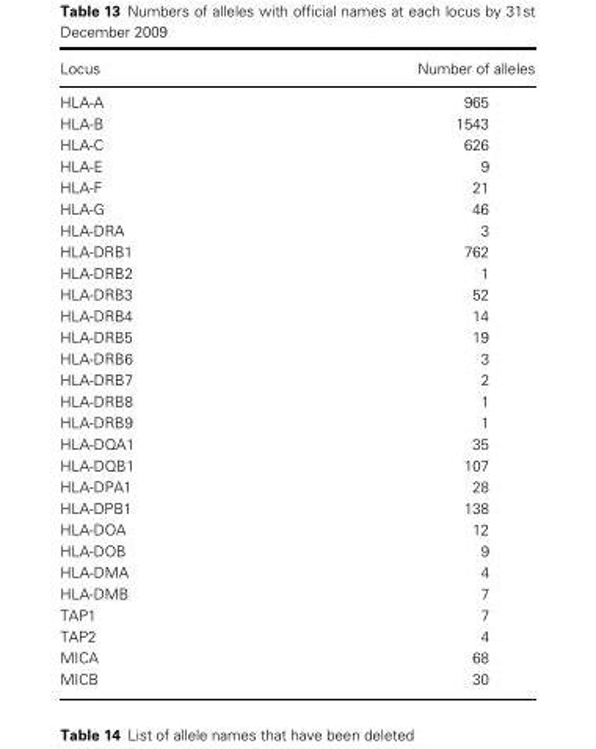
<table><thead><tr><td>Locus</td><td>Number of alleles</td></tr></thead><tbody><tr><td>HLA-A</td><td>965</td></tr><tr><td>HLA-B</td><td>1543</td></tr><tr><td>HLA-C</td><td>626</td></tr><tr><td>HLA-E</td><td>9</td></tr><tr><td>HLA-F</td><td>21</td></tr><tr><td>HLA-G</td><td>46</td></tr><tr><td>HLA-DRA</td><td>3</td></tr><tr><td>HLA-DRB1</td><td>762</td></tr><tr><td>HLA-DRB2</td><td>1</td></tr><tr><td>HLA-DRB3</td><td>52</td></tr><tr><td>HLA-DRB4</td><td>14</td></tr><tr><td>HLA-DRB5</td><td>19</td></tr><tr><td>HLA-DRB6</td><td>3</td></tr><tr><td>HLA-DRB7</td><td>2</td></tr><tr><td>HLA-DRB8</td><td>1</td></tr><tr><td>HLA-DRB9</td><td>1</td></tr><tr><td>HLA-DQA1</td><td>35</td></tr><tr><td>HLA-DQB1</td><td>107</td></tr><tr><td>HLA-DPA1</td><td>28</td></tr><tr><td>HLA-DPB1</td><td>138</td></tr><tr><td>HLA-DOA</td><td>12</td></tr><tr><td>HLA-DOB</td><td>9</td></tr><tr><td>HLA-DMA</td><td>4</td></tr><tr><td>HLA-DMB</td><td>7</td></tr><tr><td>TAP1</td><td>7</td></tr><tr><td>TAP2</td><td>4</td></tr><tr><td>MICA</td><td>68</td></tr><tr><td>MICB</td><td>30</td></tr></tbody></table>